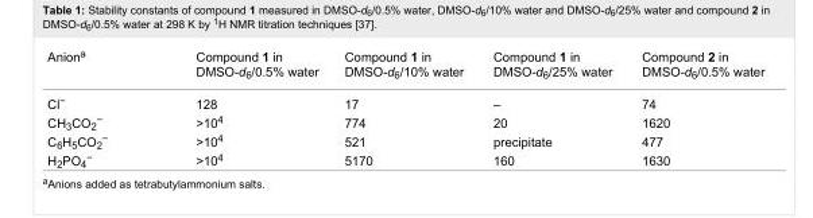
<table><tbody><tr><td>Anion<sup>a</sup></td><td>Compound 1 in DMSO-d<sub>6</sub>/0.5% water</td><td>Compound 1 in DMSO-d<sub>6</sub>/10% water</td><td>Compound 1 in DMSO-d<sub>6</sub>/25% water</td><td>Compound 2 in DMSO-d<sub>6</sub>/0.5% water</td></tr><tr><td>Cl<sup>−</sup></td><td>128</td><td>17</td><td>–</td><td>74</td></tr><tr><td>CH<sub>3</sub>CO<sub>2</sub><sup>−</sup></td><td>&gt;10<sup>4</sup></td><td>774</td><td>20</td><td>1620</td></tr><tr><td>C<sub>6</sub>H<sub>5</sub>CO<sub>2</sub><sup>−</sup></td><td>&gt;10<sup>4</sup></td><td>521</td><td>precipitate</td><td>477</td></tr><tr><td>H<sub>2</sub>PO<sub>4</sub><sup>−</sup></td><td>&gt;10<sup>4</sup></td><td>5170</td><td>160</td><td>1630</td></tr></tbody></table>